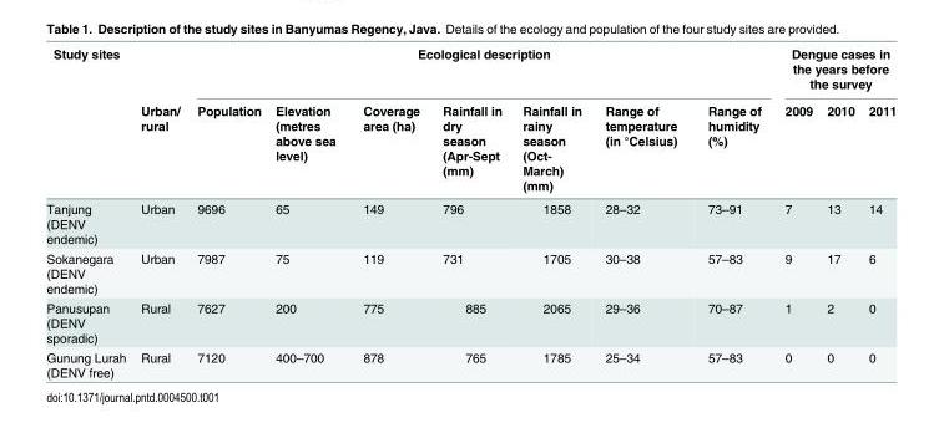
<table><thead><tr><td rowspan="2">Study sites</td><td rowspan="2">Urban/ rural</td><td colspan="7">Ecological description</td><td colspan="3">Dengue cases in the years before the survey</td></tr><tr><td>Population</td><td>Elevation (metres above sea level)</td><td>Coverage area (ha)</td><td>Rainfall in dry season (Apr-Sept (mm)</td><td>Rainfall in rainy season (Oct- March) (mm)</td><td>Range of temperature (in °Celsius)</td><td>Range of humidity (%)</td><td>2009</td><td>2010</td><td>2011</td></tr></thead><tbody><tr><td>Tanjung (DENV endemic)</td><td>Urban</td><td>9696</td><td>65</td><td>149</td><td>796</td><td>1858</td><td>28–32</td><td>73–91</td><td>7</td><td>13</td><td>14</td></tr><tr><td>Sokanegara (DENV endemic)</td><td>Urban</td><td>7987</td><td>75</td><td>119</td><td>731</td><td>1705</td><td>30–38</td><td>57–83</td><td>9</td><td>17</td><td>6</td></tr><tr><td>Panusupan (DENV sporadic)</td><td>Rural</td><td>7627</td><td>200</td><td>775</td><td>885</td><td>2065</td><td>29–36</td><td>70–87</td><td>1</td><td>2</td><td>0</td></tr><tr><td>Gunung Lurah (DENV free)</td><td>Rural</td><td>7120</td><td>400–700</td><td>878</td><td>765</td><td>1785</td><td>25–34</td><td>57–83</td><td>0</td><td>0</td><td>0</td></tr></tbody></table>